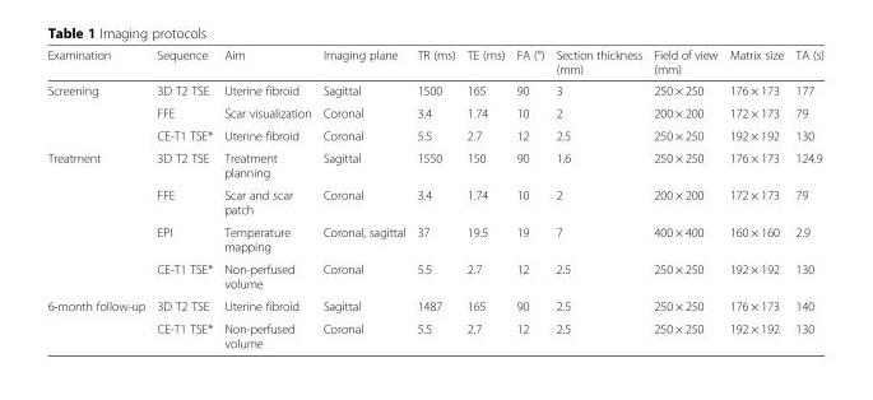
<table><thead><tr><td>Examination</td><td>Sequence</td><td>Aim</td><td>Imaging plane</td><td>TR (ms)</td><td>TE (ms)</td><td>FA (°)</td><td>Section thickness (mm)</td><td>Field of view (mm)</td><td>Matrix size</td><td>TA (s)</td></tr></thead><tbody><tr><td rowspan="3">Screening</td><td>3D T2 TSE</td><td>Uterine fibroid</td><td>Sagittal</td><td>1500</td><td>165</td><td>90</td><td>3</td><td>250 × 250</td><td>176 × 173</td><td>177</td></tr><tr><td>FFE</td><td>Scar visualization</td><td>Coronal</td><td>3.4</td><td>1.74</td><td>10</td><td>2</td><td>200 × 200</td><td>172 × 173</td><td>79</td></tr><tr><td>CE-T1 TSE*</td><td>Uterine fibroid</td><td>Coronal</td><td>5.5</td><td>2.7</td><td>12</td><td>2.5</td><td>250 × 250</td><td>192 × 192</td><td>130</td></tr><tr><td rowspan="4">Treatment</td><td>3D T2 TSE</td><td>Treatment planning</td><td>Sagittal</td><td>1550</td><td>150</td><td>90</td><td>1.6</td><td>250 × 250</td><td>176 × 173</td><td>124.9</td></tr><tr><td>FFE</td><td>Scar and scar patch</td><td>Coronal</td><td>3.4</td><td>1.74</td><td>10</td><td>2</td><td>200 × 200</td><td>172 × 173</td><td>79</td></tr><tr><td>EPI</td><td>Temperature mapping</td><td>Coronal, sagittal</td><td>37</td><td>19.5</td><td>19</td><td>7</td><td>400 × 400</td><td>160 × 160</td><td>2.9</td></tr><tr><td>CE-T1 TSE*</td><td>Non-perfused volume</td><td>Coronal</td><td>5.5</td><td>2.7</td><td>12</td><td>2.5</td><td>250 × 250</td><td>192 × 192</td><td>130</td></tr><tr><td rowspan="2">6-month follow-up</td><td>3D T2 TSE</td><td>Uterine fibroid</td><td>Sagittal</td><td>1487</td><td>165</td><td>90</td><td>2.5</td><td>250 × 250</td><td>176 × 173</td><td>140</td></tr><tr><td>CE-T1 TSE*</td><td>Non-perfused volume</td><td>Coronal</td><td>5.5</td><td>2.7</td><td>12</td><td>2.5</td><td>250 × 250</td><td>192 × 192</td><td>130</td></tr></tbody></table>